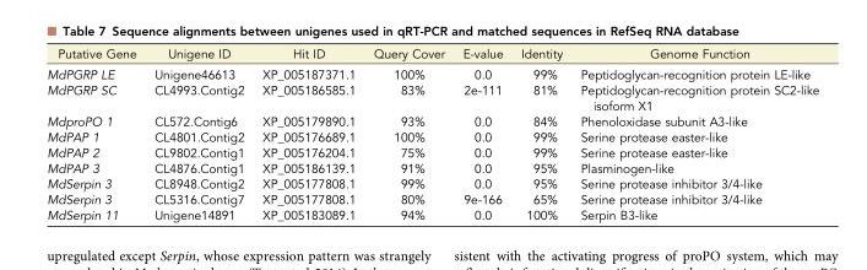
<table><thead><tr><td>Putative Gene</td><td>Unigene ID</td><td>Hit ID</td><td>Query Cover</td><td>E-value</td><td>Identity</td><td>Genome Function</td></tr></thead><tbody><tr><td>MdPGRP LE</td><td>Unigene46613</td><td>XP_005187371.1</td><td>100%</td><td>0.0</td><td>99%</td><td>Peptidoglycan-recognition protein LE-like</td></tr><tr><td>MdPGRP SC</td><td>CL4993.Contig2</td><td>XP_005186585.1</td><td>83%</td><td>2e-111</td><td>81%</td><td>Peptidoglycan-recognition protein SC2-like isoform X1</td></tr><tr><td>MdproPO 1</td><td>CL572.Contig6</td><td>XP_005179890.1</td><td>93%</td><td>0.0</td><td>84%</td><td>Phenoloxidase subunit A3-like</td></tr><tr><td>MdPAP 1</td><td>CL4801.Contig2</td><td>XP_005176689.1</td><td>100%</td><td>0.0</td><td>99%</td><td>Serine protease easter-like</td></tr><tr><td>MdPAP 2</td><td>CL9802.Contig1</td><td>XP_005176204.1</td><td>75%</td><td>0.0</td><td>99%</td><td>Serine protease easter-like</td></tr><tr><td>MdPAP 3</td><td>CL4876.Contig1</td><td>XP_005186139.1</td><td>91%</td><td>0.0</td><td>95%</td><td>Plasminogen-like</td></tr><tr><td>MdSerpin 3</td><td>CL8948.Contig2</td><td>XP_005177808.1</td><td>99%</td><td>0.0</td><td>95%</td><td>Serine protease inhibitor 3/4-like</td></tr><tr><td>MdSerpin 3</td><td>CL5316.Contig7</td><td>XP_005177808.1</td><td>80%</td><td>9e-166</td><td>65%</td><td>Serine protease inhibitor 3/4-like</td></tr><tr><td>MdSerpin 11</td><td>Unigene14891</td><td>XP_005183089.1</td><td>94%</td><td>0.0</td><td>100%</td><td>Serpin B3-like</td></tr></tbody></table>